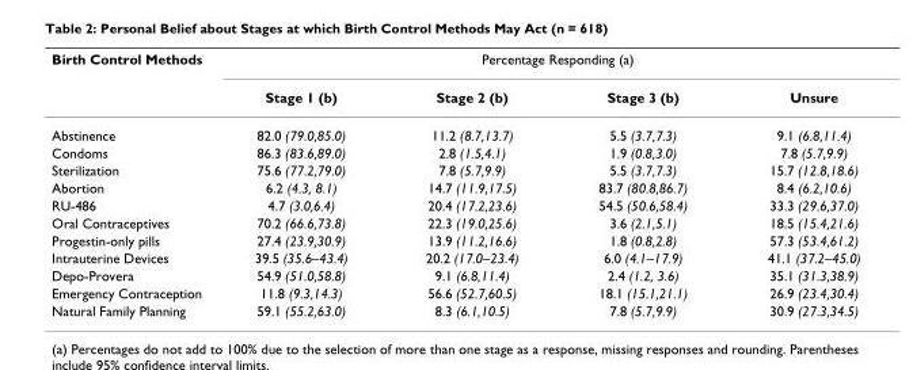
<table><thead><tr><td rowspan="2">Birth Control Methods</td><td colspan="4">Percentage Responding (a)</td></tr><tr><td>Stage 1 (b)</td><td>Stage 2 (b)</td><td>Stage 3 (b)</td><td>Unsure</td></tr></thead><tbody><tr><td>Abstinence</td><td>82.0 (79.0,85.0)</td><td>11.2 (8.7,13.7)</td><td>5.5 (3.7,7.3)</td><td>9.1 (6.8,11.4)</td></tr><tr><td>Condoms</td><td>86.3 (83.6,89.0)</td><td>2.8 (1.5,4.1)</td><td>1.9 (0.8,3.0)</td><td>7.8 (5.7,9.9)</td></tr><tr><td>Sterilization</td><td>75.6 (77.2,79.0)</td><td>7.8 (5.7,9.9)</td><td>5.5 (3.7,7.3)</td><td>15.7 (12.8,18.6)</td></tr><tr><td>Abortion</td><td>6.2 (4.3, 8.1)</td><td>14.7 (11.9,17.5)</td><td>83.7 (80.8,86.7)</td><td>8.4 (6.2,10.6)</td></tr><tr><td>RU-486</td><td>4.7 (3.0,6.4)</td><td>20.4 (17.2,23.6)</td><td>54.5 (50.6,58.4)</td><td>33.3 (29.6,37.0)</td></tr><tr><td>Oral Contraceptives</td><td>70.2 (66.6,73.8)</td><td>22.3 (19.0,25.6)</td><td>3.6 (2.1,5.1)</td><td>18.5 (15.4,21.6)</td></tr><tr><td>Progestin-only pills</td><td>27.4 (23.9,30.9)</td><td>13.9 (11.2,16.6)</td><td>1.8 (0.8,2.8)</td><td>57.3 (53.4,61.2)</td></tr><tr><td>Intrauterine Devices</td><td>39.5 (35.6–43.4)</td><td>20.2 (17.0–23.4)</td><td>6.0 (4.1–17.9)</td><td>41.1 (37.2–45.0)</td></tr><tr><td>Depo-Provera</td><td>54.9 (51.0,58.8)</td><td>9.1 (6.8,11.4)</td><td>2.4 (1.2, 3.6)</td><td>35.1 (31.3,38.9)</td></tr><tr><td>Emergency Contraception</td><td>11.8 (9.3,14.3)</td><td>56.6 (52.7,60.5)</td><td>18.1 (15.1,21.1)</td><td>26.9 (23.4,30.4)</td></tr><tr><td>Natural Family Planning</td><td>59.1 (55.2,63.0)</td><td>8.3 (6.1,10.5)</td><td>7.8 (5.7,9.9)</td><td>30.9 (27.3,34.5)</td></tr></tbody></table>